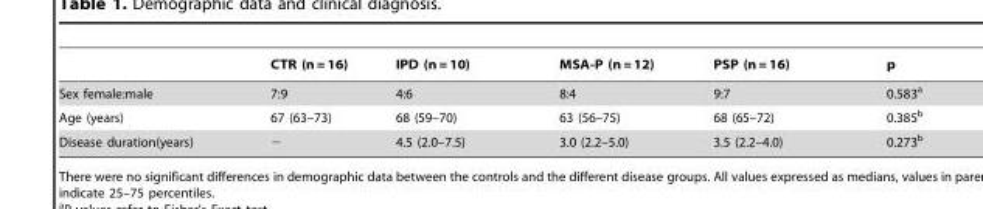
<table><thead><tr><td></td><td>CTR (n = 16)</td><td>IPD (n = 10)</td><td>MSA-P (n = 12)</td><td>PSP (n = 16)</td><td>p</td></tr></thead><tbody><tr><td>Sex female:male</td><td>7:9</td><td>4:6</td><td>8:4</td><td>9:7</td><td>0.583<sup>a</sup></td></tr><tr><td>Age (years)</td><td>67 (63–73)</td><td>68 (59–70)</td><td>63 (56–75)</td><td>68 (65–72)</td><td>0.385<sup>b</sup></td></tr><tr><td>Disease duration(years)</td><td>−</td><td>4.5 (2.0–7.5)</td><td>3.0 (2.2–5.0)</td><td>3.5 (2.2–4.0)</td><td>0.273<sup>b</sup></td></tr></tbody></table>